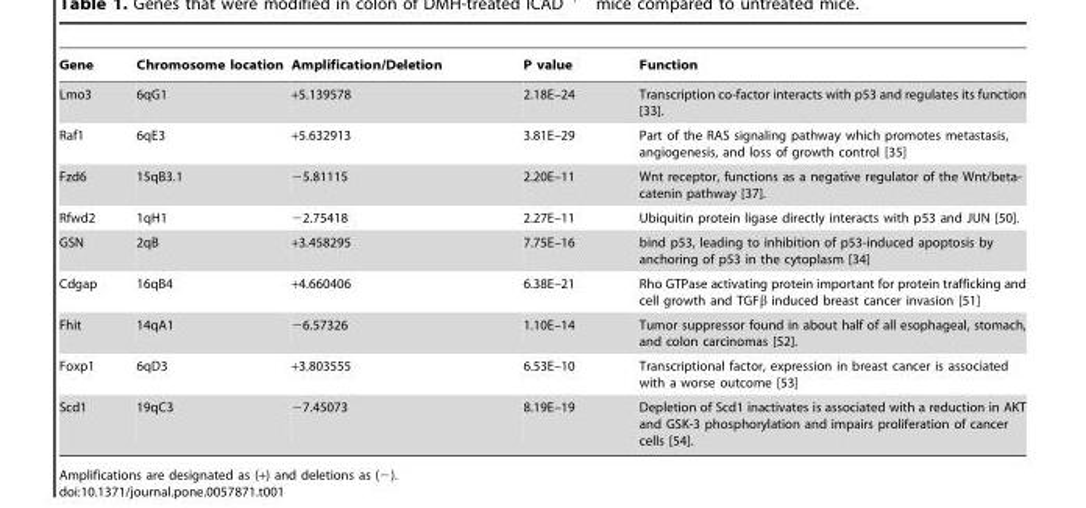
<table><thead><tr><td>Gene</td><td>Chromosome location</td><td>Amplification/Deletion</td><td>P value</td><td>Function</td></tr></thead><tbody><tr><td>Lmo3</td><td>6qG1</td><td>+5.139578</td><td>2.18E–24</td><td>Transcription co-factor interacts with p53 and regulates its function [33].</td></tr><tr><td>Raf1</td><td>6qE3</td><td>+5.632913</td><td>3.81E–29</td><td>Part of the RAS signaling pathway which promotes metastasis, angiogenesis, and loss of growth control [35]</td></tr><tr><td>Fzd6</td><td>15qB3.1</td><td>−5.81115</td><td>2.20E–11</td><td>Wnt receptor, functions as a negative regulator of the Wnt/beta- catenin pathway [37].</td></tr><tr><td>Rfwd2</td><td>1qH1</td><td>−2.75418</td><td>2.27E–11</td><td>Ubiquitin protein ligase directly interacts with p53 and JUN [50].</td></tr><tr><td>GSN</td><td>2qB</td><td>+3.458295</td><td>7.75E–16</td><td>bind p53, leading to inhibition of p53-induced apoptosis by anchoring of p53 in the cytoplasm [34]</td></tr><tr><td>Cdgap</td><td>16qB4</td><td>+4.660406</td><td>6.38E–21</td><td>Rho GTPase activating protein important for protein trafficking and cell growth and TGFβ induced breast cancer invasion [51]</td></tr><tr><td>Fhit</td><td>14qA1</td><td>−6.57326</td><td>1.10E–14</td><td>Tumor suppressor found in about half of all esophageal, stomach, and colon carcinomas [52].</td></tr><tr><td>Foxp1</td><td>6qD3</td><td>+3.803555</td><td>6.53E–10</td><td>Transcriptional factor, expression in breast cancer is associated with a worse outcome [53]</td></tr><tr><td>Scd1</td><td>19qC3</td><td>−7.45073</td><td>8.19E–19</td><td>Depletion of Scd1 inactivates is associated with a reduction in AKT and GSK-3 phosphorylation and impairs proliferation of cancer cells [54].</td></tr></tbody></table>